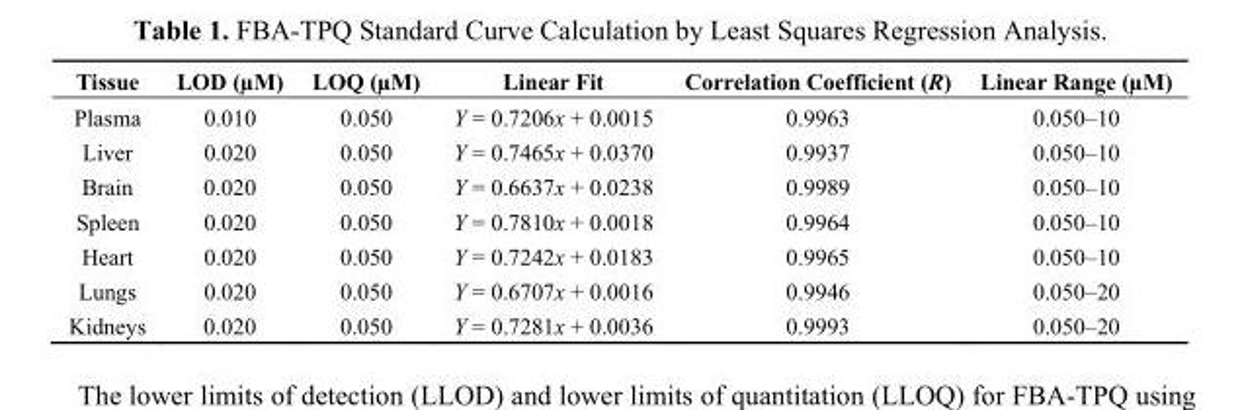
<table><thead><tr><td>Tissue</td><td>LOD (µM)</td><td>LOQ (µM)</td><td>Linear Fit</td><td>Correlation Coefficient (R)</td><td>Linear Range (µM)</td></tr></thead><tbody><tr><td>Plasma</td><td>0.010</td><td>0.050</td><td>Y = 0.7206x + 0.0015</td><td>0.9963</td><td>0.050–10</td></tr><tr><td>Liver</td><td>0.020</td><td>0.050</td><td>Y = 0.7465x + 0.0370</td><td>0.9937</td><td>0.050–10</td></tr><tr><td>Brain</td><td>0.020</td><td>0.050</td><td>Y = 0.6637x + 0.0238</td><td>0.9989</td><td>0.050–10</td></tr><tr><td>Spleen</td><td>0.020</td><td>0.050</td><td>Y = 0.7810x + 0.0018</td><td>0.9964</td><td>0.050–10</td></tr><tr><td>Heart</td><td>0.020</td><td>0.050</td><td>Y = 0.7242x + 0.0183</td><td>0.9965</td><td>0.050–10</td></tr><tr><td>Lungs</td><td>0.020</td><td>0.050</td><td>Y = 0.6707x + 0.0016</td><td>0.9946</td><td>0.050–20</td></tr><tr><td>Kidneys</td><td>0.020</td><td>0.050</td><td>Y = 0.7281x + 0.0036</td><td>0.9993</td><td>0.050–20</td></tr></tbody></table>